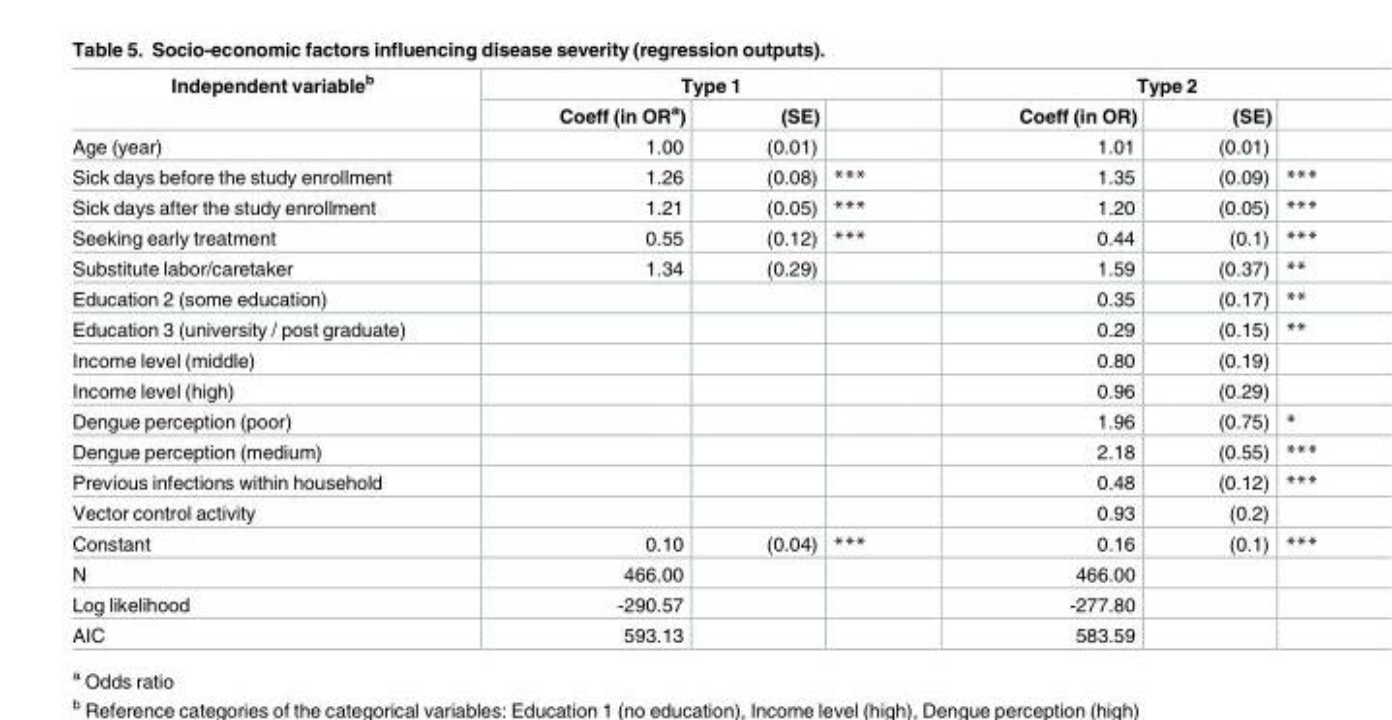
<table><thead><tr><td rowspan="2">Independent variable<sup>b</sup></td><td colspan="3">Type 1</td><td colspan="3">Type 2</td></tr><tr><td>Coeff (in OR<sup>a</sup>)</td><td>(SE)</td><td></td><td>Coeff (in OR)</td><td>(SE)</td><td></td></tr></thead><tbody><tr><td>Age (year)</td><td>1.00</td><td>(0.01)</td><td></td><td>1.01</td><td>(0.01)</td><td></td></tr><tr><td>Sick days before the study enrollment</td><td>1.26</td><td>(0.08)</td><td>***</td><td>1.35</td><td>(0.09)</td><td>***</td></tr><tr><td>Sick days after the study enrollment</td><td>1.21</td><td>(0.05)</td><td>***</td><td>1.20</td><td>(0.05)</td><td>***</td></tr><tr><td>Seeking early treatment</td><td>0.55</td><td>(0.12)</td><td>***</td><td>0.44</td><td>(0.1)</td><td>***</td></tr><tr><td>Substitute labor/caretaker</td><td>1.34</td><td>(0.29)</td><td></td><td>1.59</td><td>(0.37)</td><td>**</td></tr><tr><td>Education 2 (some education)</td><td></td><td></td><td></td><td>0.35</td><td>(0.17)</td><td>**</td></tr><tr><td>Education 3 (university / post graduate)</td><td></td><td></td><td></td><td>0.29</td><td>(0.15)</td><td>**</td></tr><tr><td>Income level (middle)</td><td></td><td></td><td></td><td>0.80</td><td>(0.19)</td><td></td></tr><tr><td>Income level (high)</td><td></td><td></td><td></td><td>0.96</td><td>(0.29)</td><td></td></tr><tr><td>Dengue perception (poor)</td><td></td><td></td><td></td><td>1.96</td><td>(0.75)</td><td>*</td></tr><tr><td>Dengue perception (medium)</td><td></td><td></td><td></td><td>2.18</td><td>(0.55)</td><td>***</td></tr><tr><td>Previous infections within household</td><td></td><td></td><td></td><td>0.48</td><td>(0.12)</td><td>***</td></tr><tr><td>Vector control activity</td><td></td><td></td><td></td><td>0.93</td><td>(0.2)</td><td></td></tr><tr><td>Constant</td><td>0.10</td><td>(0.04)</td><td>***</td><td>0.16</td><td>(0.1)</td><td>***</td></tr><tr><td>N</td><td>466.00</td><td></td><td></td><td>466.00</td><td></td><td></td></tr><tr><td>Log likelihood</td><td>-290.57</td><td></td><td></td><td>-277.80</td><td></td><td></td></tr><tr><td>AIC</td><td>593.13</td><td></td><td></td><td>583.59</td><td></td><td></td></tr></tbody></table>